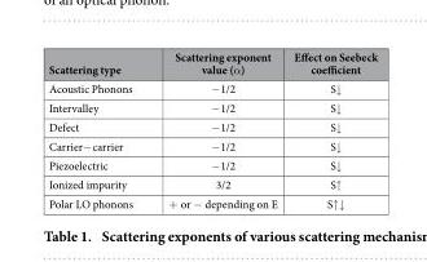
<table><thead><tr><td>Scattering type</td><td>Scattering exponent value (α)</td><td>Effect on Seebeck coefficient</td></tr></thead><tbody><tr><td>Acoustic Phonons</td><td>− 1/2</td><td>S↓</td></tr><tr><td>Intervalley</td><td>− 1/2</td><td>S↓</td></tr><tr><td>Defect</td><td>− 1/2</td><td>S↓</td></tr><tr><td>Carrier− carrier</td><td>− 1/2</td><td>S↓</td></tr><tr><td>Piezoelectric</td><td>− 1/2</td><td>S↓</td></tr><tr><td>Ionized impurity</td><td>3/2</td><td>S↑</td></tr><tr><td>Polar LO phonons</td><td>+ or − depending on E</td><td>S↑ ↓</td></tr></tbody></table>